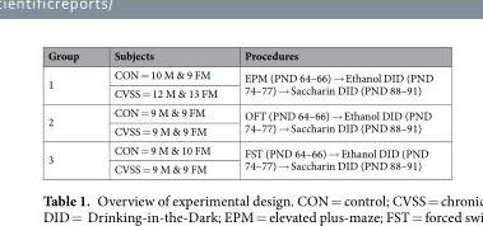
<table><thead><tr><td>Group</td><td>Subjects</td><td>Procedures</td></tr></thead><tbody><tr><td rowspan="2">1</td><td>CON = 10 M &amp; 9 FM</td><td rowspan="2">EPM (PND 64–66) → Ethanol DID (PND 74–77) → Saccharin DID (PND 88–91)</td></tr><tr><td>CVSS = 12 M &amp; 13 FM</td></tr><tr><td rowspan="2">2</td><td>CON = 9 M &amp; 9 FM</td><td rowspan="2">OFT (PND 64–66) → Ethanol DID (PND 74–77) → Saccharin DID (PND 88–91)</td></tr><tr><td>CVSS = 9 M &amp; 9 FM</td></tr><tr><td rowspan="2">3</td><td>CON = 9 M &amp; 10 FM</td><td rowspan="2">FST (PND 64–66) → Ethanol DID (PND 74–77) → Saccharin DID (PND 88–91)</td></tr><tr><td>CVSS = 9 M &amp; 9 FM</td></tr></tbody></table>